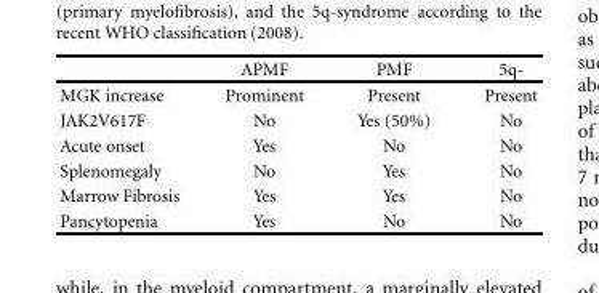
<table><thead><tr><td></td><td>APMF</td><td>PMF</td><td>5q-</td></tr></thead><tbody><tr><td>MGK increase</td><td>Prominent</td><td>Present</td><td>Present</td></tr><tr><td>JAK2V617F</td><td>No</td><td>Yes (50%)</td><td>No</td></tr><tr><td>Acute onset</td><td>Yes</td><td>No</td><td>No</td></tr><tr><td>Splenomegaly</td><td>No</td><td>Yes</td><td>No</td></tr><tr><td>Marrow Fibrosis</td><td>Yes</td><td>Yes</td><td>No</td></tr><tr><td>Pancytopenia</td><td>Yes</td><td>No</td><td>No</td></tr></tbody></table>